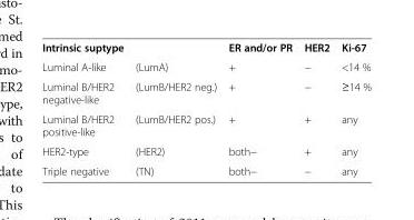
<table><tbody><tr><td>Intrinsic suptype</td><td></td><td>ER and/or PR</td><td>HER2</td><td>Ki-67</td></tr><tr><td>Luminal A-like</td><td>(LumA)</td><td>+</td><td>−</td><td>&lt;14 %</td></tr><tr><td>Luminal B/HER2 negative-like</td><td>(LumB/HER2 neg.)</td><td>+</td><td>−</td><td>≥14 %</td></tr><tr><td>Luminal B/HER2 positive-like</td><td>(LumB/HER2 pos.)</td><td>+</td><td>+</td><td>any</td></tr><tr><td>HER2-type</td><td>(HER2)</td><td>both−</td><td>+</td><td>any</td></tr><tr><td>Triple negative</td><td>(TN)</td><td>both−</td><td>−</td><td>any</td></tr></tbody></table>